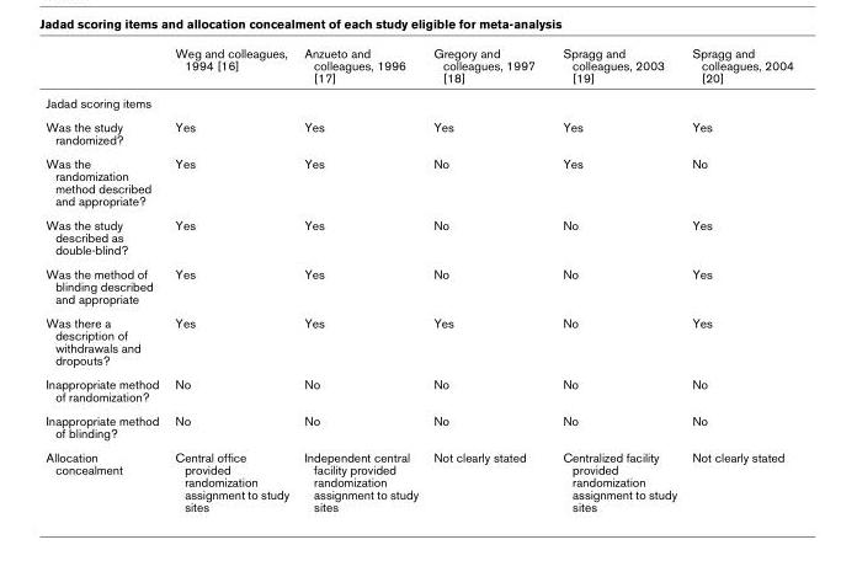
<table><thead><tr><td></td><td>Weg and colleagues, 1994 [16]</td><td>Anzueto and colleagues, 1996 [17]</td><td>Gregory and colleagues, 1997 [18]</td><td>Spragg and colleagues, 2003 [19]</td><td>Spragg and colleagues, 2004 [20]</td></tr></thead><tbody><tr><td colspan="6">Jadad scoring items</td></tr><tr><td>Was the study randomized?</td><td>Yes</td><td>Yes</td><td>Yes</td><td>Yes</td><td>Yes</td></tr><tr><td>Was the randomization method described and appropriate?</td><td>Yes</td><td>Yes</td><td>No</td><td>Yes</td><td>No</td></tr><tr><td>Was the study described as double-blind?</td><td>Yes</td><td>Yes</td><td>No</td><td>No</td><td>Yes</td></tr><tr><td>Was the method of blinding described and appropriate</td><td>Yes</td><td>Yes</td><td>No</td><td>No</td><td>Yes</td></tr><tr><td>Was there a description of withdrawals and dropouts?</td><td>Yes</td><td>Yes</td><td>Yes</td><td>No</td><td>Yes</td></tr><tr><td>Inappropriate method of randomization?</td><td>No</td><td>No</td><td>No</td><td>No</td><td>No</td></tr><tr><td>Inappropriate method of blinding?</td><td>No</td><td>No</td><td>No</td><td>No</td><td>No</td></tr><tr><td>Allocation concealment</td><td>Central office provided randomization assignment to study sites</td><td>Independent central facility provided randomization assignment to study sites</td><td>Not clearly stated</td><td>Centralized facility provided randomization assignment to study sites</td><td>Not clearly stated</td></tr></tbody></table>